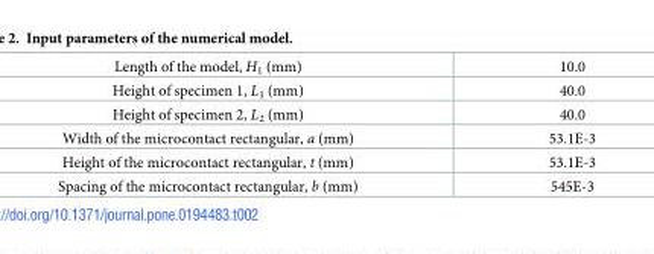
<table><tbody><tr><td>Length of the model, H<sub>1</sub> (mm)</td><td>10.0</td></tr><tr><td>Height of specimen 1, L<sub>1</sub> (mm)</td><td>40.0</td></tr><tr><td>Height of specimen 2, L<sub>2</sub> (mm)</td><td>40.0</td></tr><tr><td>Width of the microcontact rectangular, a (mm)</td><td>53.1E-3</td></tr><tr><td>Height of the microcontact rectangular, t (mm)</td><td>53.1E-3</td></tr><tr><td>Spacing of the microcontact rectangular, b (mm)</td><td>545E-3</td></tr></tbody></table>